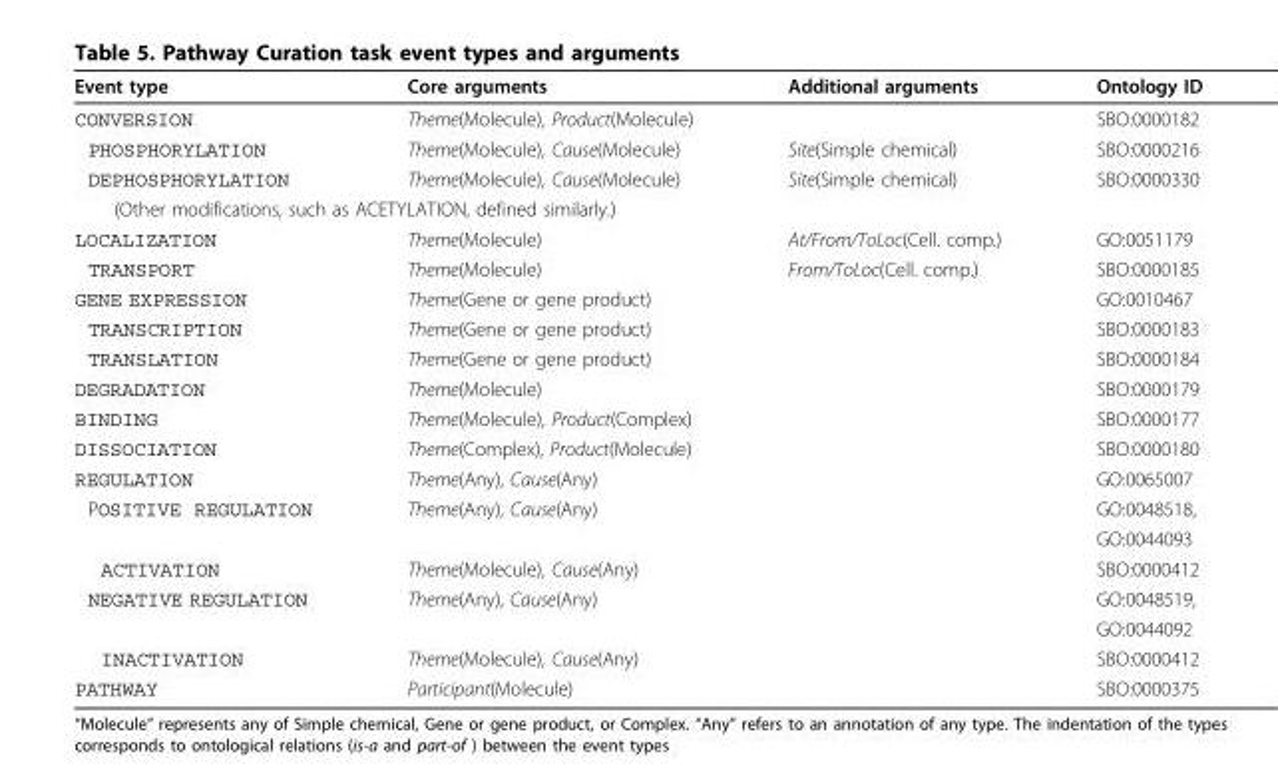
<table><thead><tr><td>Event type</td><td>Core arguments</td><td>Additional arguments</td><td>Ontology ID</td></tr></thead><tbody><tr><td>CONVERSION</td><td>Theme(Molecule), Product(Molecule)</td><td></td><td>SBO:0000182</td></tr><tr><td>PHOSPHORYLATION</td><td>Theme(Molecule), Cause(Molecule)</td><td>Site(Simple chemical)</td><td>SBO:0000216</td></tr><tr><td>DEPHOSPHORYLATION</td><td>Theme(Molecule), Cause(Molecule)</td><td>Site(Simple chemical)</td><td>SBO:0000330</td></tr><tr><td colspan="4">(Other modifications, such as ACETYLATION, defined similarly.)</td></tr><tr><td>LOCALIZATION</td><td>Theme(Molecule)</td><td>At/From/ToLoc(Cell. comp.)</td><td>GO:0051179</td></tr><tr><td>TRANSPORT</td><td>Theme(Molecule)</td><td>From/ToLoc(Cell. comp.)</td><td>SBO:0000185</td></tr><tr><td>GENE EXPRESSION</td><td>Theme(Gene or gene product)</td><td></td><td>GO:0010467</td></tr><tr><td>TRANSCRIPTION</td><td>Theme(Gene or gene product)</td><td></td><td>SBO:0000183</td></tr><tr><td>TRANSLATION</td><td>Theme(Gene or gene product)</td><td></td><td>SBO:0000184</td></tr><tr><td>DEGRADATION</td><td>Theme(Molecule)</td><td></td><td>SBO:0000179</td></tr><tr><td>BINDING</td><td>Theme(Molecule), Product(Complex)</td><td></td><td>SBO:0000177</td></tr><tr><td>DISSOCIATION</td><td>Theme(Complex), Product(Molecule)</td><td></td><td>SBO:0000180</td></tr><tr><td>REGULATION</td><td>Theme(Any), Cause(Any)</td><td></td><td>GO:0065007</td></tr><tr><td rowspan="2">POSITIVE REGULATION</td><td>Theme(Any), Cause(Any)</td><td></td><td>GO:0048518,</td></tr><tr><td></td><td></td><td>GO:0044093</td></tr><tr><td>ACTIVATION</td><td>Theme(Molecule), Cause(Any)</td><td></td><td>SBO:0000412</td></tr><tr><td rowspan="2">NEGATIVE REGULATION</td><td>Theme(Any), Cause(Any)</td><td></td><td>GO:0048519,</td></tr><tr><td></td><td></td><td>GO:0044092</td></tr><tr><td>INACTIVATION</td><td>Theme(Molecule), Cause(Any)</td><td></td><td>SBO:0000412</td></tr><tr><td>PATHWAY</td><td>Participant(Molecule)</td><td></td><td>SBO:0000375</td></tr></tbody></table>